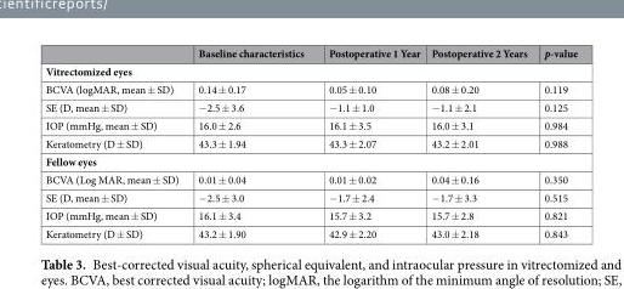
<table><thead><tr><td></td><td>Baseline characteristics</td><td>Postoperative 1 Year</td><td>Postoperative 2 Years</td><td>p-value</td></tr></thead><tbody><tr><td colspan="5">Vitrectomized eyes</td></tr><tr><td>BCVA (logMAR, mean ± SD)</td><td>0.14 ± 0.17</td><td>0.05 ± 0.10</td><td>0.08 ± 0.20</td><td>0.119</td></tr><tr><td>SE (D, mean ± SD)</td><td>−2.5 ± 3.6</td><td>−1.1 ± 1.0</td><td>−1.1 ± 2.1</td><td>0.125</td></tr><tr><td>IOP (mmHg, mean ± SD)</td><td>16.0 ± 2.6</td><td>16.1 ± 3.5</td><td>16.0 ± 3.1</td><td>0.984</td></tr><tr><td>Keratometry (D ± SD)</td><td>43.3 ± 1.94</td><td>43.3 ± 2.07</td><td>43.2 ± 2.01</td><td>0.988</td></tr><tr><td colspan="5">Fellow eyes</td></tr><tr><td>BCVA (Log MAR, mean ± SD)</td><td>0.01 ± 0.04</td><td>0.01 ± 0.02</td><td>0.04 ± 0.16</td><td>0.350</td></tr><tr><td>SE (D, mean ± SD)</td><td>−2.5 ± 3.0</td><td>−1.7 ± 2.4</td><td>−1.7 ± 3.3</td><td>0.515</td></tr><tr><td>IOP (mmHg, mean ± SD)</td><td>16.1 ± 3.4</td><td>15.7 ± 3.2</td><td>15.7 ± 2.8</td><td>0.821</td></tr><tr><td>Keratometry (D ± SD)</td><td>43.2 ± 1.90</td><td>42.9 ± 2.20</td><td>43.0 ± 2.18</td><td>0.843</td></tr></tbody></table>